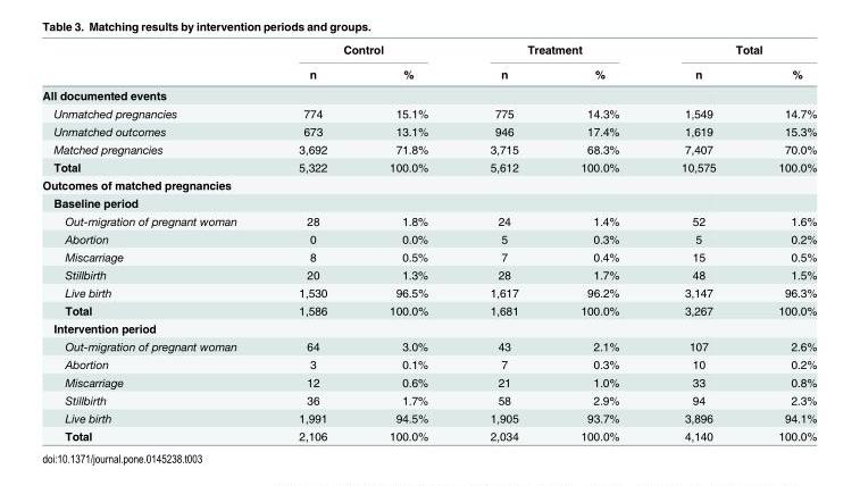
<table><thead><tr><td rowspan="2"></td><td colspan="2">Control</td><td colspan="2">Treatment</td><td colspan="2">Total</td></tr><tr><td>n</td><td>%</td><td>n</td><td>%</td><td>n</td><td>%</td></tr></thead><tbody><tr><td colspan="7">All documented events</td></tr><tr><td>Unmatched pregnancies</td><td>774</td><td>15.1%</td><td>775</td><td>14.3%</td><td>1,549</td><td>14.7%</td></tr><tr><td>Unmatched outcomes</td><td>673</td><td>13.1%</td><td>946</td><td>17.4%</td><td>1,619</td><td>15.3%</td></tr><tr><td>Matched pregnancies</td><td>3,692</td><td>71.8%</td><td>3,715</td><td>68.3%</td><td>7,407</td><td>70.0%</td></tr><tr><td>Total</td><td>5,322</td><td>100.0%</td><td>5,612</td><td>100.0%</td><td>10,575</td><td>100.0%</td></tr><tr><td colspan="7">Outcomes of matched pregnancies</td></tr><tr><td colspan="7">Baseline period</td></tr><tr><td>Out-migration of pregnant woman</td><td>28</td><td>1.8%</td><td>24</td><td>1.4%</td><td>52</td><td>1.6%</td></tr><tr><td>Abortion</td><td>0</td><td>0.0%</td><td>5</td><td>0.3%</td><td>5</td><td>0.2%</td></tr><tr><td>Miscarriage</td><td>8</td><td>0.5%</td><td>7</td><td>0.4%</td><td>15</td><td>0.5%</td></tr><tr><td>Stillbirth</td><td>20</td><td>1.3%</td><td>28</td><td>1.7%</td><td>48</td><td>1.5%</td></tr><tr><td>Live birth</td><td>1,530</td><td>96.5%</td><td>1,617</td><td>96.2%</td><td>3,147</td><td>96.3%</td></tr><tr><td>Total</td><td>1,586</td><td>100.0%</td><td>1,681</td><td>100.0%</td><td>3,267</td><td>100.0%</td></tr><tr><td colspan="7">Intervention period</td></tr><tr><td>Out-migration of pregnant woman</td><td>64</td><td>3.0%</td><td>43</td><td>2.1%</td><td>107</td><td>2.6%</td></tr><tr><td>Abortion</td><td>3</td><td>0.1%</td><td>7</td><td>0.3%</td><td>10</td><td>0.2%</td></tr><tr><td>Miscarriage</td><td>12</td><td>0.6%</td><td>21</td><td>1.0%</td><td>33</td><td>0.8%</td></tr><tr><td>Stillbirth</td><td>36</td><td>1.7%</td><td>58</td><td>2.9%</td><td>94</td><td>2.3%</td></tr><tr><td>Live birth</td><td>1,991</td><td>94.5%</td><td>1,905</td><td>93.7%</td><td>3,896</td><td>94.1%</td></tr><tr><td>Total</td><td>2,106</td><td>100.0%</td><td>2,034</td><td>100.0%</td><td>4,140</td><td>100.0%</td></tr></tbody></table>